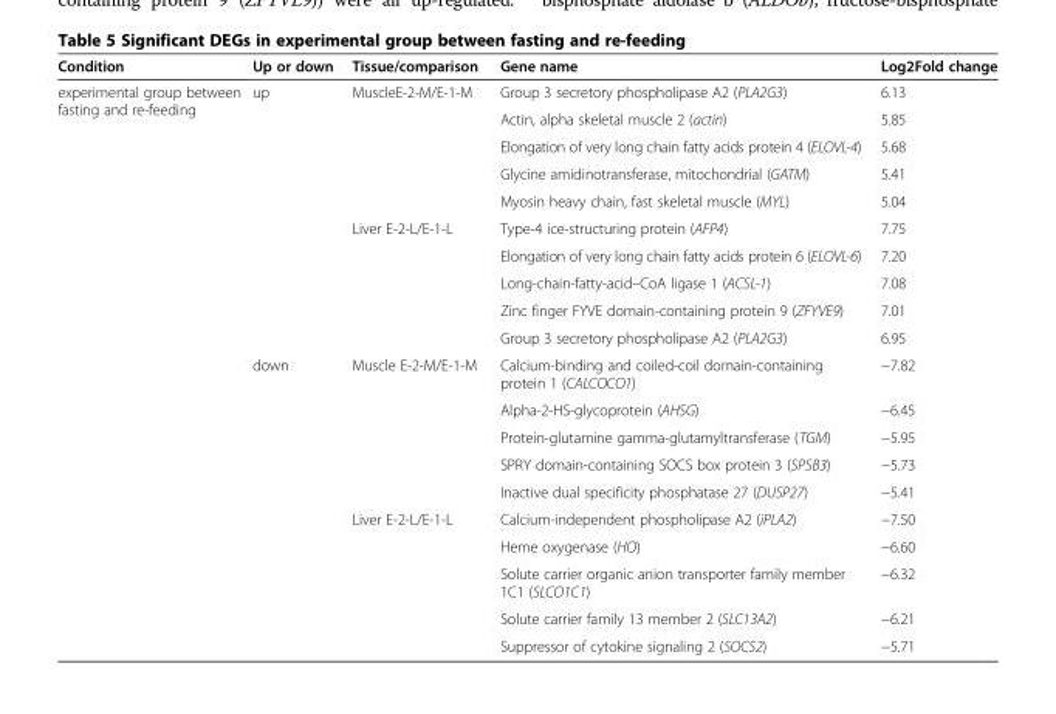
<table><thead><tr><td>Condition</td><td>Up or down</td><td>Tissue/comparison</td><td>Gene name</td><td>Log2Fold change</td></tr></thead><tbody><tr><td rowspan="20">experimental group between fasting and re-feeding</td><td rowspan="10">up</td><td rowspan="5">MuscleE-2-M/E-1-M</td><td>Group 3 secretory phospholipase A2 (PLA2G3)</td><td>6.13</td></tr><tr><td>Actin, alpha skeletal muscle 2 (actin)</td><td>5.85</td></tr><tr><td>Elongation of very long chain fatty acids protein 4 (ELOVL-4)</td><td>5.68</td></tr><tr><td>Glycine amidinotransferase, mitochondrial (GATM)</td><td>5.41</td></tr><tr><td>Myosin heavy chain, fast skeletal muscle (MYL)</td><td>5.04</td></tr><tr><td rowspan="5">Liver E-2-L/E-1-L</td><td>Type-4 ice-structuring protein (AFP4)</td><td>7.75</td></tr><tr><td>Elongation of very long chain fatty acids protein 6 (ELOVL-6)</td><td>7.20</td></tr><tr><td>Long-chain-fatty-acid–CoA ligase 1 (ACSL-1)</td><td>7.08</td></tr><tr><td>Zinc finger FYVE domain-containing protein 9 (ZFYVE9)</td><td>7.01</td></tr><tr><td>Group 3 secretory phospholipase A2 (PLA2G3)</td><td>6.95</td></tr><tr><td rowspan="10">down</td><td rowspan="5">Muscle E-2-M/E-1-M</td><td>Calcium-binding and coiled-coil domain-containing protein 1 (CALCOCO1)</td><td>−7.82</td></tr><tr><td>Alpha-2-HS-glycoprotein (AHSG)</td><td>−6.45</td></tr><tr><td>Protein-glutamine gamma-glutamyltransferase (TGM)</td><td>−5.95</td></tr><tr><td>SPRY domain-containing SOCS box protein 3 (SPSB3)</td><td>−5.73</td></tr><tr><td>Inactive dual specificity phosphatase 27 (DUSP27)</td><td>−5.41</td></tr><tr><td rowspan="5">Liver E-2-L/E-1-L</td><td>Calcium-independent phospholipase A2 (iPLA2)</td><td>−7.50</td></tr><tr><td>Heme oxygenase (HO)</td><td>−6.60</td></tr><tr><td>Solute carrier organic anion transporter family member 1C1 (SLCO1C1)</td><td>−6.32</td></tr><tr><td>Solute carrier family 13 member 2 (SLC13A2)</td><td>−6.21</td></tr><tr><td>Suppressor of cytokine signaling 2 (SOCS2)</td><td>−5.71</td></tr></tbody></table>